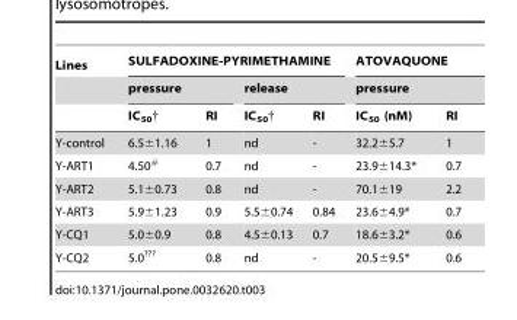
<table><thead><tr><td rowspan="3">Lines</td><td colspan="4">SULFADOXINE-PYRIMETHAMINE</td><td rowspan="2" colspan="2">ATOVAQUONE pressure</td></tr><tr><td colspan="2">pressure</td><td colspan="2">release</td></tr><tr><td>IC<sub>50</sub>†</td><td>RI</td><td>IC<sub>50</sub>†</td><td>RI</td><td>IC<sub>50</sub> (nM)</td><td>RI</td></tr></thead><tbody><tr><td>Y-control</td><td>6.5±1.16</td><td>1</td><td>nd</td><td>-</td><td>32.2±5.7</td><td>1</td></tr><tr><td>Y-ART1</td><td>4.50<sup>#</sup></td><td>0.7</td><td>nd</td><td>-</td><td>23.9±14.3*</td><td>0.7</td></tr><tr><td>Y-ART2</td><td>5.1±0.73</td><td>0.8</td><td>nd</td><td>-</td><td>70.1±19</td><td>2.2</td></tr><tr><td>Y-ART3</td><td>5.9±1.23</td><td>0.9</td><td>5.5±0.74</td><td>0.84</td><td>23.6±4.9*</td><td>0.7</td></tr><tr><td>Y-CQ1</td><td>5.0±0.9</td><td>0.8</td><td>4.5±0.13</td><td>0.7</td><td>18.6±3.2*</td><td>0.6</td></tr><tr><td>Y-CQ2</td><td>5.0<sup>???</sup></td><td>0.8</td><td>nd</td><td>-</td><td>20.5±9.5*</td><td>0.6</td></tr></tbody></table>